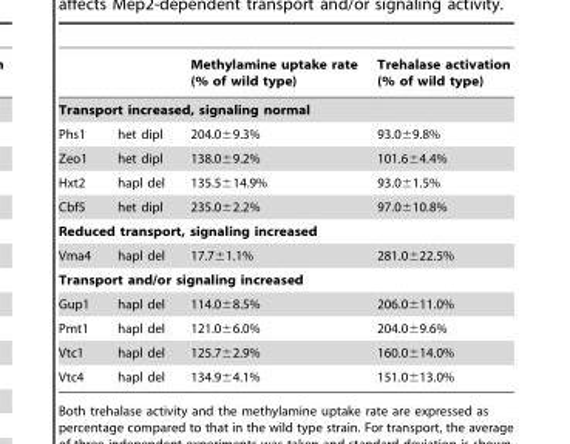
<table><thead><tr><td></td><td></td><td>Methylamine uptake rate (% of wild type)</td><td>Trehalase activation (% of wild type)</td></tr></thead><tbody><tr><td colspan="4">Transport increased, signaling normal</td></tr><tr><td>Phs1</td><td>het dipl</td><td>204.0±9.3%</td><td>93.0±9.8%</td></tr><tr><td>Zeo1</td><td>het dipl</td><td>138.0±9.2%</td><td>101.6±4.4%</td></tr><tr><td>Hxt2</td><td>hapl del</td><td>135.5±14.9%</td><td>93.0±1.5%</td></tr><tr><td>Cbf5</td><td>het dipl</td><td>235.0±2.2%</td><td>97.0±10.8%</td></tr><tr><td colspan="4">Reduced transport, signaling increased</td></tr><tr><td>Vma4</td><td>hapl del</td><td>17.7±1.1%</td><td>281.0±22.5%</td></tr><tr><td colspan="4">Transport and/or signaling increased</td></tr><tr><td>Gup1</td><td>hapl del</td><td>114.0±8.5%</td><td>206.0±11.0%</td></tr><tr><td>Pmt1</td><td>hapl del</td><td>121.0±6.0%</td><td>204.0±9.6%</td></tr><tr><td>Vtc1</td><td>hapl del</td><td>125.7±2.9%</td><td>160.0±14.0%</td></tr><tr><td>Vtc4</td><td>hapl del</td><td>134.9±4.1%</td><td>151.0±13.0%</td></tr></tbody></table>